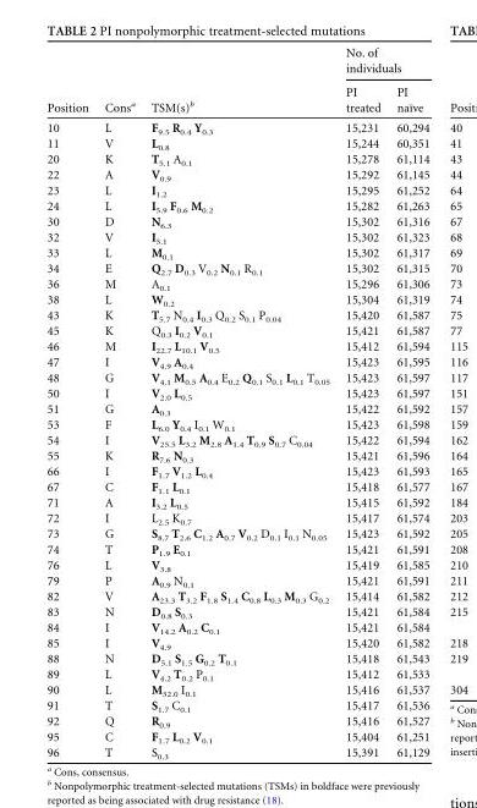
<table><thead><tr><td rowspan="2">Position</td><td rowspan="2">Cons<sup>a</sup></td><td rowspan="2">TSM(s)<sup>b</sup></td><td colspan="2">No. of individuals</td></tr><tr><td>PI treated</td><td>PI naïve</td></tr></thead><tbody><tr><td>10</td><td>L</td><td>F<sub>9.5</sub> R<sub>0.4</sub> Y<sub>0.3</sub></td><td>15,231</td><td>60,294</td></tr><tr><td>11</td><td>V</td><td>L<sub>0.8</sub></td><td>15,244</td><td>60,351</td></tr><tr><td>20</td><td>K</td><td>T<sub>5.1</sub> A<sub>0.1</sub></td><td>15,278</td><td>61,114</td></tr><tr><td>22</td><td>A</td><td>V<sub>0.9</sub></td><td>15,292</td><td>61,145</td></tr><tr><td>23</td><td>L</td><td>I<sub>1.2</sub></td><td>15,295</td><td>61,252</td></tr><tr><td>24</td><td>L</td><td>I<sub>5.9</sub> F<sub>0.6</sub> M<sub>0.2</sub></td><td>15,282</td><td>61,263</td></tr><tr><td>30</td><td>D</td><td>N<sub>6.3</sub></td><td>15,302</td><td>61,316</td></tr><tr><td>32</td><td>V</td><td>I<sub>5.1</sub></td><td>15,302</td><td>61,323</td></tr><tr><td>33</td><td>L</td><td>M<sub>0.1</sub></td><td>15,302</td><td>61,317</td></tr><tr><td>34</td><td>E</td><td>Q<sub>2.7</sub> D<sub>0.3</sub> V<sub>0.2</sub> N<sub>0.1</sub> R<sub>0.1</sub></td><td>15,302</td><td>61,315</td></tr><tr><td>36</td><td>M</td><td>A<sub>0.1</sub></td><td>15,296</td><td>61,306</td></tr><tr><td>38</td><td>L</td><td>W<sub>0.2</sub></td><td>15,304</td><td>61,319</td></tr><tr><td>43</td><td>K</td><td>T<sub>5.7</sub> N<sub>0.4</sub> I<sub>0.3</sub> Q<sub>0.2</sub> S<sub>0.1</sub> P<sub>0.04</sub></td><td>15,420</td><td>61,587</td></tr><tr><td>45</td><td>K</td><td>Q<sub>0.3</sub> I<sub>0.2</sub> V<sub>0.1</sub></td><td>15,421</td><td>61,587</td></tr><tr><td>46</td><td>M</td><td>I<sub>22.7</sub> L<sub>10.1</sub> V<sub>0.5</sub></td><td>15,412</td><td>61,594</td></tr><tr><td>47</td><td>I</td><td>V<sub>4.9</sub> A<sub>0.4</sub></td><td>15,423</td><td>61,595</td></tr><tr><td>48</td><td>G</td><td>V<sub>4.1</sub> M<sub>0.5</sub> A<sub>0.4</sub> E<sub>0.2</sub> Q<sub>0.1</sub> S<sub>0.1</sub> L<sub>0.1</sub> T<sub>0.05</sub></td><td>15,423</td><td>61,597</td></tr><tr><td>50</td><td>I</td><td>V<sub>2.0</sub> L<sub>0.5</sub></td><td>15,423</td><td>61,597</td></tr><tr><td>51</td><td>G</td><td>A<sub>0.3</sub></td><td>15,422</td><td>61,592</td></tr><tr><td>53</td><td>F</td><td>L<sub>6.0</sub> Y<sub>0.4</sub> I<sub>0.1</sub> W<sub>0.1</sub></td><td>15,423</td><td>61,598</td></tr><tr><td>54</td><td>I</td><td>V<sub>25.5</sub> L<sub>3.2</sub> M<sub>2.8</sub> A<sub>1.4</sub> T<sub>0.9</sub> S<sub>0.7</sub> C<sub>0.04</sub></td><td>15,422</td><td>61,594</td></tr><tr><td>55</td><td>K</td><td>R<sub>7.6</sub> N<sub>0.3</sub></td><td>15,421</td><td>61,596</td></tr><tr><td>66</td><td>I</td><td>F<sub>1.7</sub> V<sub>1.2</sub> L<sub>0.4</sub></td><td>15,423</td><td>61,593</td></tr><tr><td>67</td><td>C</td><td>F<sub>1.1</sub> L<sub>0.1</sub></td><td>15,418</td><td>61,577</td></tr><tr><td>71</td><td>A</td><td>I<sub>3.2</sub> L<sub>0.5</sub></td><td>15,415</td><td>61,592</td></tr><tr><td>72</td><td>I</td><td>L<sub>2.5</sub> K<sub>0.7</sub></td><td>15,417</td><td>61,574</td></tr><tr><td>73</td><td>G</td><td>S<sub>8.7</sub> T<sub>2.6</sub> C<sub>1.2</sub> A<sub>0.7</sub> V<sub>0.2</sub> D<sub>0.1</sub> I<sub>0.1</sub> N<sub>0.05</sub></td><td>15,423</td><td>61,592</td></tr><tr><td>74</td><td>T</td><td>P<sub>1.9</sub> E<sub>0.1</sub></td><td>15,421</td><td>61,591</td></tr><tr><td>76</td><td>L</td><td>V<sub>3.8</sub></td><td>15,419</td><td>61,585</td></tr><tr><td>79</td><td>P</td><td>A<sub>0.9</sub> N<sub>0.1</sub></td><td>15,421</td><td>61,591</td></tr><tr><td>82</td><td>V</td><td>A<sub>23.3</sub> T<sub>3.2</sub> F<sub>1.8</sub> S<sub>1.4</sub> C<sub>0.8</sub> L<sub>0.3</sub> M<sub>0.3</sub> G<sub>0.2</sub></td><td>15,414</td><td>61,582</td></tr><tr><td>83</td><td>N</td><td>D<sub>0.8</sub> S<sub>0.3</sub></td><td>15,421</td><td>61,584</td></tr><tr><td>84</td><td>I</td><td>V<sub>14.2</sub> A<sub>0.2</sub> C<sub>0.1</sub></td><td>15,421</td><td>61,584</td></tr><tr><td>85</td><td>I</td><td>V<sub>4.9</sub></td><td>15,420</td><td>61,582</td></tr><tr><td>88</td><td>N</td><td>D<sub>5.1</sub> S<sub>1.5</sub> G<sub>0.2</sub> T<sub>0.1</sub></td><td>15,418</td><td>61,543</td></tr><tr><td>89</td><td>L</td><td>V<sub>4.2</sub> T<sub>0.2</sub> P<sub>0.1</sub></td><td>15,412</td><td>61,533</td></tr><tr><td>90</td><td>L</td><td>M<sub>32.0</sub> I<sub>0.1</sub></td><td>15,416</td><td>61,537</td></tr><tr><td>91</td><td>T</td><td>S<sub>1.7</sub> C<sub>0.1</sub></td><td>15,417</td><td>61,536</td></tr><tr><td>92</td><td>Q</td><td>R<sub>0.9</sub></td><td>15,416</td><td>61,527</td></tr><tr><td>95</td><td>C</td><td>F<sub>1.7</sub> L<sub>0.2</sub> V<sub>0.1</sub></td><td>15,404</td><td>61,251</td></tr><tr><td>96</td><td>T</td><td>S<sub>0.3</sub></td><td>15,391</td><td>61,129</td></tr></tbody></table>